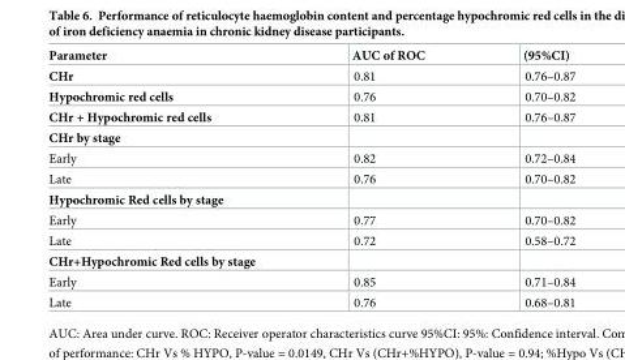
<table><thead><tr><td>Parameter</td><td>AUC of ROC</td><td>(95%CI)</td></tr></thead><tbody><tr><td>CHr</td><td>0.81</td><td>0.76–0.87</td></tr><tr><td>Hypochromic red cells</td><td>0.76</td><td>0.70–0.82</td></tr><tr><td>CHr + Hypochromic red cells</td><td>0.81</td><td>0.76–0.87</td></tr><tr><td colspan="3">CHr by stage</td></tr><tr><td>Early</td><td>0.82</td><td>0.72–0.84</td></tr><tr><td>Late</td><td>0.76</td><td>0.70–0.82</td></tr><tr><td colspan="3">Hypochromic Red cells by stage</td></tr><tr><td>Early</td><td>0.77</td><td>0.70–0.82</td></tr><tr><td>Late</td><td>0.72</td><td>0.58–0.72</td></tr><tr><td colspan="3">CHr+Hypochromic Red cells by stage</td></tr><tr><td>Early</td><td>0.85</td><td>0.71–0.84</td></tr><tr><td>Late</td><td>0.76</td><td>0.68–0.81</td></tr></tbody></table>